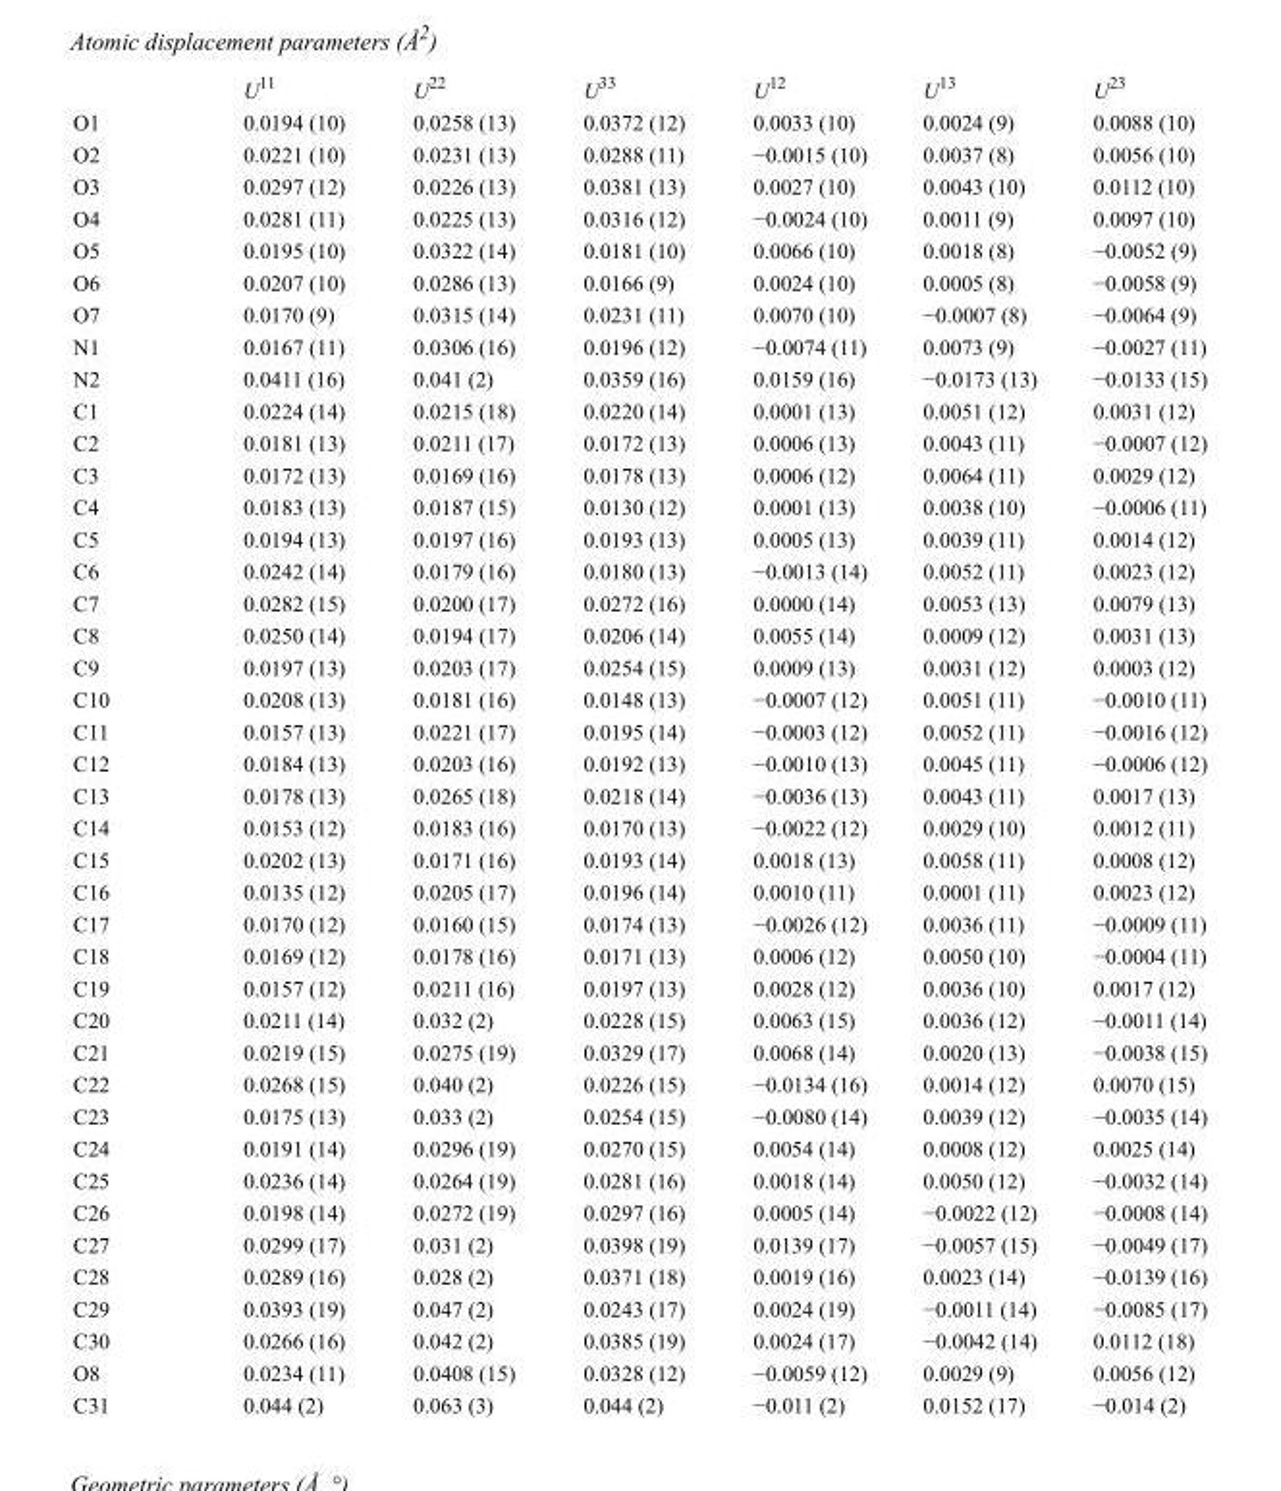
<table><thead><tr><td></td><td>U<sup>11</sup></td><td>U<sup>22</sup></td><td>U<sup>33</sup></td><td>U<sup>12</sup></td><td>U<sup>13</sup></td><td>U<sup>23</sup></td></tr></thead><tbody><tr><td>O1</td><td>0.0194 (10)</td><td>0.0258 (13)</td><td>0.0372 (12)</td><td>0.0033 (10)</td><td>0.0024 (9)</td><td>0.0088 (10)</td></tr><tr><td>O2</td><td>0.0221 (10)</td><td>0.0231 (13)</td><td>0.0288 (11)</td><td>−0.0015 (10)</td><td>0.0037 (8)</td><td>0.0056 (10)</td></tr><tr><td>O3</td><td>0.0297 (12)</td><td>0.0226 (13)</td><td>0.0381 (13)</td><td>0.0027 (10)</td><td>0.0043 (10)</td><td>0.0112 (10)</td></tr><tr><td>O4</td><td>0.0281 (11)</td><td>0.0225 (13)</td><td>0.0316 (12)</td><td>−0.0024 (10)</td><td>0.0011 (9)</td><td>0.0097 (10)</td></tr><tr><td>O5</td><td>0.0195 (10)</td><td>0.0322 (14)</td><td>0.0181 (10)</td><td>0.0066 (10)</td><td>0.0018 (8)</td><td>−0.0052 (9)</td></tr><tr><td>O6</td><td>0.0207 (10)</td><td>0.0286 (13)</td><td>0.0166 (9)</td><td>0.0024 (10)</td><td>0.0005 (8)</td><td>−0.0058 (9)</td></tr><tr><td>O7</td><td>0.0170 (9)</td><td>0.0315 (14)</td><td>0.0231 (11)</td><td>0.0070 (10)</td><td>−0.0007 (8)</td><td>−0.0064 (9)</td></tr><tr><td>N1</td><td>0.0167 (11)</td><td>0.0306 (16)</td><td>0.0196 (12)</td><td>−0.0074 (11)</td><td>0.0073 (9)</td><td>−0.0027 (11)</td></tr><tr><td>N2</td><td>0.0411 (16)</td><td>0.041 (2)</td><td>0.0359 (16)</td><td>0.0159 (16)</td><td>−0.0173 (13)</td><td>−0.0133 (15)</td></tr><tr><td>C1</td><td>0.0224 (14)</td><td>0.0215 (18)</td><td>0.0220 (14)</td><td>0.0001 (13)</td><td>0.0051 (12)</td><td>0.0031 (12)</td></tr><tr><td>C2</td><td>0.0181 (13)</td><td>0.0211 (17)</td><td>0.0172 (13)</td><td>0.0006 (13)</td><td>0.0043 (11)</td><td>−0.0007 (12)</td></tr><tr><td>C3</td><td>0.0172 (13)</td><td>0.0169 (16)</td><td>0.0178 (13)</td><td>0.0006 (12)</td><td>0.0064 (11)</td><td>0.0029 (12)</td></tr><tr><td>C4</td><td>0.0183 (13)</td><td>0.0187 (15)</td><td>0.0130 (12)</td><td>0.0001 (13)</td><td>0.0038 (10)</td><td>−0.0006 (11)</td></tr><tr><td>C5</td><td>0.0194 (13)</td><td>0.0197 (16)</td><td>0.0193 (13)</td><td>0.0005 (13)</td><td>0.0039 (11)</td><td>0.0014 (12)</td></tr><tr><td>C6</td><td>0.0242 (14)</td><td>0.0179 (16)</td><td>0.0180 (13)</td><td>−0.0013 (14)</td><td>0.0052 (11)</td><td>0.0023 (12)</td></tr><tr><td>C7</td><td>0.0282 (15)</td><td>0.0200 (17)</td><td>0.0272 (16)</td><td>0.0000 (14)</td><td>0.0053 (13)</td><td>0.0079 (13)</td></tr><tr><td>C8</td><td>0.0250 (14)</td><td>0.0194 (17)</td><td>0.0206 (14)</td><td>0.0055 (14)</td><td>0.0009 (12)</td><td>0.0031 (13)</td></tr><tr><td>C9</td><td>0.0197 (13)</td><td>0.0203 (17)</td><td>0.0254 (15)</td><td>0.0009 (13)</td><td>0.0031 (12)</td><td>0.0003 (12)</td></tr><tr><td>C10</td><td>0.0208 (13)</td><td>0.0181 (16)</td><td>0.0148 (13)</td><td>−0.0007 (12)</td><td>0.0051 (11)</td><td>−0.0010 (11)</td></tr><tr><td>C11</td><td>0.0157 (13)</td><td>0.0221 (17)</td><td>0.0195 (14)</td><td>−0.0003 (12)</td><td>0.0052 (11)</td><td>−0.0016 (12)</td></tr><tr><td>C12</td><td>0.0184 (13)</td><td>0.0203 (16)</td><td>0.0192 (13)</td><td>−0.0010 (13)</td><td>0.0045 (11)</td><td>−0.0006 (12)</td></tr><tr><td>C13</td><td>0.0178 (13)</td><td>0.0265 (18)</td><td>0.0218 (14)</td><td>−0.0036 (13)</td><td>0.0043 (11)</td><td>0.0017 (13)</td></tr><tr><td>C14</td><td>0.0153 (12)</td><td>0.0183 (16)</td><td>0.0170 (13)</td><td>−0.0022 (12)</td><td>0.0029 (10)</td><td>0.0012 (11)</td></tr><tr><td>C15</td><td>0.0202 (13)</td><td>0.0171 (16)</td><td>0.0193 (14)</td><td>0.0018 (13)</td><td>0.0058 (11)</td><td>0.0008 (12)</td></tr><tr><td>C16</td><td>0.0135 (12)</td><td>0.0205 (17)</td><td>0.0196 (14)</td><td>0.0010 (11)</td><td>0.0001 (11)</td><td>0.0023 (12)</td></tr><tr><td>C17</td><td>0.0170 (12)</td><td>0.0160 (15)</td><td>0.0174 (13)</td><td>−0.0026 (12)</td><td>0.0036 (11)</td><td>−0.0009 (11)</td></tr><tr><td>C18</td><td>0.0169 (12)</td><td>0.0178 (16)</td><td>0.0171 (13)</td><td>0.0006 (12)</td><td>0.0050 (10)</td><td>−0.0004 (11)</td></tr><tr><td>C19</td><td>0.0157 (12)</td><td>0.0211 (16)</td><td>0.0197 (13)</td><td>0.0028 (12)</td><td>0.0036 (10)</td><td>0.0017 (12)</td></tr><tr><td>C20</td><td>0.0211 (14)</td><td>0.032 (2)</td><td>0.0228 (15)</td><td>0.0063 (15)</td><td>0.0036 (12)</td><td>−0.0011 (14)</td></tr><tr><td>C21</td><td>0.0219 (15)</td><td>0.0275 (19)</td><td>0.0329 (17)</td><td>0.0068 (14)</td><td>0.0020 (13)</td><td>−0.0038 (15)</td></tr><tr><td>C22</td><td>0.0268 (15)</td><td>0.040 (2)</td><td>0.0226 (15)</td><td>−0.0134 (16)</td><td>0.0014 (12)</td><td>0.0070 (15)</td></tr><tr><td>C23</td><td>0.0175 (13)</td><td>0.033 (2)</td><td>0.0254 (15)</td><td>−0.0080 (14)</td><td>0.0039 (12)</td><td>−0.0035 (14)</td></tr><tr><td>C24</td><td>0.0191 (14)</td><td>0.0296 (19)</td><td>0.0270 (15)</td><td>0.0054 (14)</td><td>0.0008 (12)</td><td>0.0025 (14)</td></tr><tr><td>C25</td><td>0.0236 (14)</td><td>0.0264 (19)</td><td>0.0281 (16)</td><td>0.0018 (14)</td><td>0.0050 (12)</td><td>−0.0032 (14)</td></tr><tr><td>C26</td><td>0.0198 (14)</td><td>0.0272 (19)</td><td>0.0297 (16)</td><td>0.0005 (14)</td><td>−0.0022 (12)</td><td>−0.0008 (14)</td></tr><tr><td>C27</td><td>0.0299 (17)</td><td>0.031 (2)</td><td>0.0398 (19)</td><td>0.0139 (17)</td><td>−0.0057 (15)</td><td>−0.0049 (17)</td></tr><tr><td>C28</td><td>0.0289 (16)</td><td>0.028 (2)</td><td>0.0371 (18)</td><td>0.0019 (16)</td><td>0.0023 (14)</td><td>−0.0139 (16)</td></tr><tr><td>C29</td><td>0.0393 (19)</td><td>0.047 (2)</td><td>0.0243 (17)</td><td>0.0024 (19)</td><td>−0.0011 (14)</td><td>−0.0085 (17)</td></tr><tr><td>C30</td><td>0.0266 (16)</td><td>0.042 (2)</td><td>0.0385 (19)</td><td>0.0024 (17)</td><td>−0.0042 (14)</td><td>0.0112 (18)</td></tr><tr><td>O8</td><td>0.0234 (11)</td><td>0.0408 (15)</td><td>0.0328 (12)</td><td>−0.0059 (12)</td><td>0.0029 (9)</td><td>0.0056 (12)</td></tr><tr><td>C31</td><td>0.044 (2)</td><td>0.063 (3)</td><td>0.044 (2)</td><td>−0.011 (2)</td><td>0.0152 (17)</td><td>−0.014 (2)</td></tr></tbody></table>